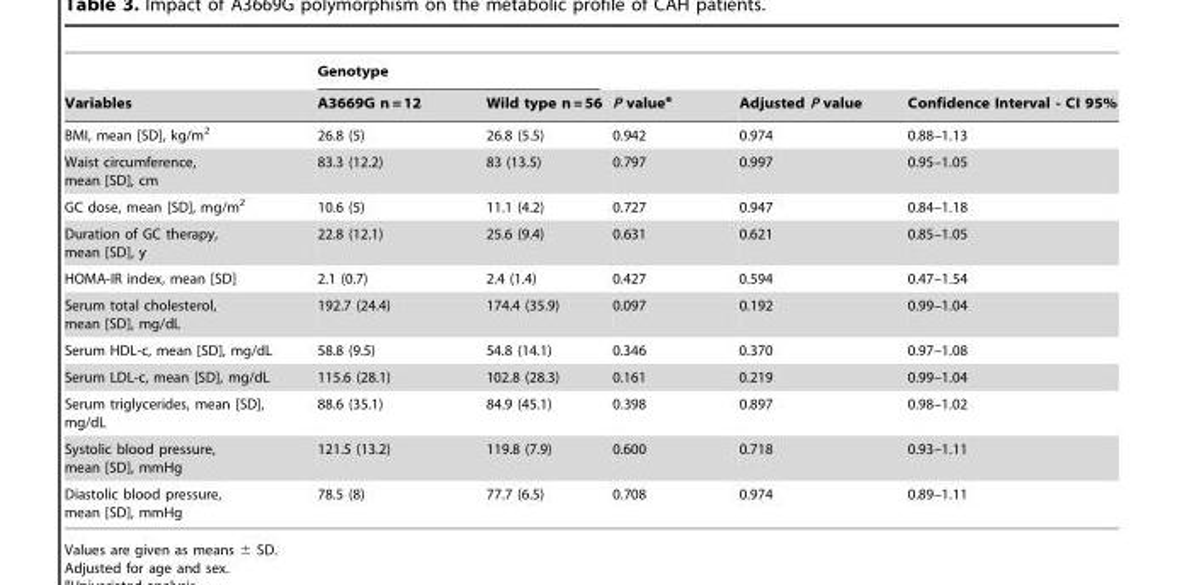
<table><thead><tr><td rowspan="2">Variables</td><td colspan="2">Genotype</td><td rowspan="2">P value<sup>a</sup></td><td rowspan="2">Adjusted P value</td><td rowspan="2">Confidence Interval - CI 95%</td></tr><tr><td>A3669G n = 12</td><td>Wild type n = 56</td></tr></thead><tbody><tr><td>BMI, mean [SD], kg/m<sup>2</sup></td><td>26.8 (5)</td><td>26.8 (5.5)</td><td>0.942</td><td>0.974</td><td>0.88–1.13</td></tr><tr><td>Waist circumference, mean [SD], cm</td><td>83.3 (12.2)</td><td>83 (13.5)</td><td>0.797</td><td>0.997</td><td>0.95–1.05</td></tr><tr><td>GC dose, mean [SD], mg/m<sup>2</sup></td><td>10.6 (5)</td><td>11.1 (4.2)</td><td>0.727</td><td>0.947</td><td>0.84–1.18</td></tr><tr><td>Duration of GC therapy, mean [SD], y</td><td>22.8 (12.1)</td><td>25.6 (9.4)</td><td>0.631</td><td>0.621</td><td>0.85–1.05</td></tr><tr><td>HOMA-IR index, mean [SD]</td><td>2.1 (0.7)</td><td>2.4 (1.4)</td><td>0.427</td><td>0.594</td><td>0.47–1.54</td></tr><tr><td>Serum total cholesterol, mean [SD], mg/dL</td><td>192.7 (24.4)</td><td>174.4 (35.9)</td><td>0.097</td><td>0.192</td><td>0.99–1.04</td></tr><tr><td>Serum HDL-c, mean [SD], mg/dL</td><td>58.8 (9.5)</td><td>54.8 (14.1)</td><td>0.346</td><td>0.370</td><td>0.97–1.08</td></tr><tr><td>Serum LDL-c, mean [SD], mg/dL</td><td>115.6 (28.1)</td><td>102.8 (28.3)</td><td>0.161</td><td>0.219</td><td>0.99–1.04</td></tr><tr><td>Serum triglycerides, mean [SD], mg/dL</td><td>88.6 (35.1)</td><td>84.9 (45.1)</td><td>0.398</td><td>0.897</td><td>0.98–1.02</td></tr><tr><td>Systolic blood pressure, mean [SD], mmHg</td><td>121.5 (13.2)</td><td>119.8 (7.9)</td><td>0.600</td><td>0.718</td><td>0.93–1.11</td></tr><tr><td>Diastolic blood pressure, mean [SD], mmHg</td><td>78.5 (8)</td><td>77.7 (6.5)</td><td>0.708</td><td>0.974</td><td>0.89–1.11</td></tr></tbody></table>